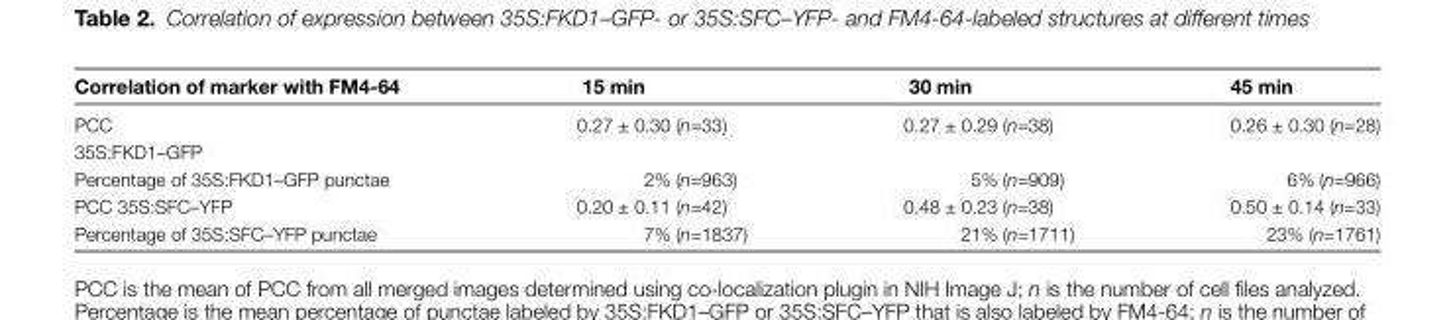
<table><thead><tr><td>Correlation of marker with FM4-64</td><td>15 min</td><td>30 min</td><td>45 min</td></tr></thead><tbody><tr><td>PCC 35S:FKD1–GFP</td><td>0.27 ± 0.30 (n=33)</td><td>0.27 ± 0.29 (n=38)</td><td>0.26 ± 0.30 (n=28)</td></tr><tr><td>Percentage of 35S:FKD1–GFP punctae</td><td>2% (n=963)</td><td>5% (n=909)</td><td>6% (n=966)</td></tr><tr><td>PCC 35S:SFC–YFP</td><td>0.20 ± 0.11 (n=42)</td><td>0.48 ± 0.23 (n=38)</td><td>0.50 ± 0.14 (n=33)</td></tr><tr><td>Percentage of 35S:SFC–YFP punctae</td><td>7% (n=1837)</td><td>21% (n=1711)</td><td>23% (n=1761)</td></tr></tbody></table>